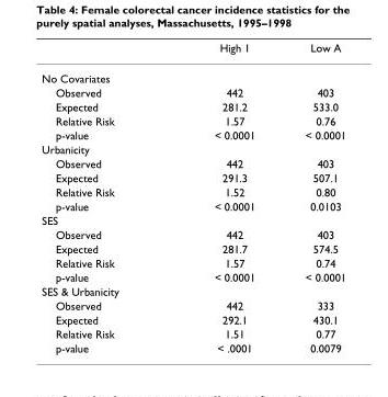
<table><thead><tr><td></td><td>High 1</td><td>Low A</td></tr></thead><tbody><tr><td colspan="3">No Covariates</td></tr><tr><td>Observed</td><td>442</td><td>403</td></tr><tr><td>Expected</td><td>281.2</td><td>533.0</td></tr><tr><td>Relative Risk</td><td>1.57</td><td>0.76</td></tr><tr><td>p-value</td><td>&lt; 0.0001</td><td>&lt; 0.0001</td></tr><tr><td colspan="3">Urbanicity</td></tr><tr><td>Observed</td><td>442</td><td>403</td></tr><tr><td>Expected</td><td>291.3</td><td>507.1</td></tr><tr><td>Relative Risk</td><td>1.52</td><td>0.80</td></tr><tr><td>p-value</td><td>&lt; 0.0001</td><td>0.0103</td></tr><tr><td colspan="3">SES</td></tr><tr><td>Observed</td><td>442</td><td>403</td></tr><tr><td>Expected</td><td>281.7</td><td>574.5</td></tr><tr><td>Relative Risk</td><td>1.57</td><td>0.74</td></tr><tr><td>p-value</td><td>&lt; 0.0001</td><td>&lt; 0.0001</td></tr><tr><td colspan="3">SES &amp; Urbanicity</td></tr><tr><td>Observed</td><td>442</td><td>333</td></tr><tr><td>Expected</td><td>292.1</td><td>430.1</td></tr><tr><td>Relative Risk</td><td>1.51</td><td>0.77</td></tr><tr><td>p-value</td><td>&lt; .0001</td><td>0.0079</td></tr></tbody></table>